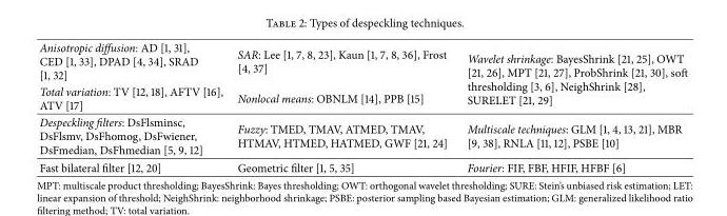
<table><tbody><tr><td>Anisotropic diffusion: AD [1, 31], CED [1, 33], DPAD [4, 34], SRAD [1, 32]</td><td>SAR: Lee [1, 7, 8, 23], Kaun [1, 7, 8, 36], Frost [4, 37]</td><td rowspan="2">Wavelet shrinkage: BayesShrink [21, 25], OWT [21, 26], MPT [21, 27], ProbShrink [21, 30], soft thresholding [3, 6], NeighShrink [28], SURELET [21, 29]</td></tr><tr><td>Total variation: TV [12, 18], AFTV [16], ATV [17]</td><td>Nonlocal means: OBNLM [14], PPB [15]</td></tr><tr><td>Despeckling filters: DsFlsminsc, DsFlsmv, DsFhomog, DsFwiener, DsFmedian, DsFhmedian [5, 9, 12]</td><td>Fuzzy: TMED, TMAV, ATMED, TMAV, HTMAV, HTMED, HATMED, GWF [21, 24]</td><td>Multiscale techniques: GLM [1, 4, 13, 21], MBR [9, 38], RNLA [11, 12], PSBE [10]</td></tr><tr><td>Fast bilateral filter [12, 20]</td><td>Geometric filter [1, 5, 35]</td><td>Fourier: FIF, FBF, HFIF, HFBF [6]</td></tr></tbody></table>